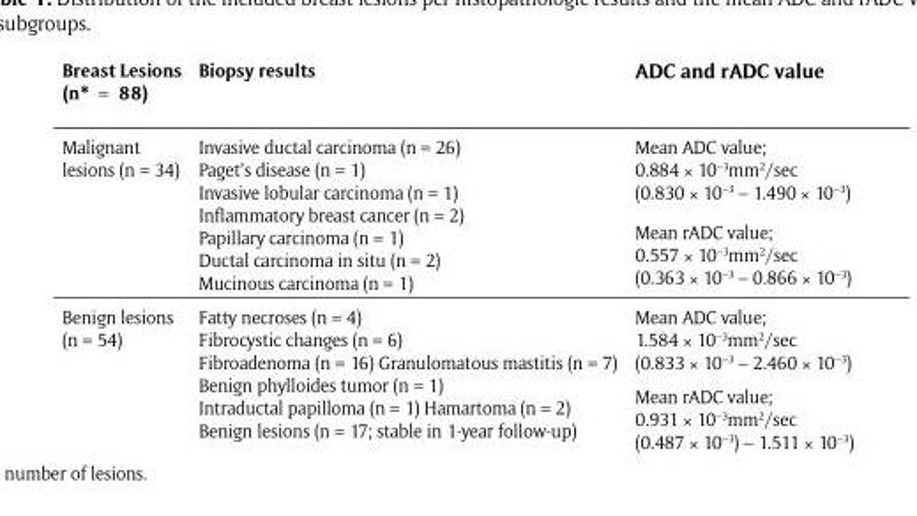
<table><thead><tr><td>Breast Lesions (n* = 88)</td><td>Biopsy results</td><td>ADC and rADC value</td></tr></thead><tbody><tr><td rowspan="2">Malignant lesions (n = 34)</td><td rowspan="2">Invasive ductal carcinoma (n = 26) Paget’s disease (n = 1) Invasive lobular carcinoma (n = 1) Inflammatory breast cancer (n = 2) Papillary carcinoma (n = 1) Ductal carcinoma in situ (n = 2) Mucinous carcinoma (n = 1)</td><td>Mean ADC value; 0.884 × 10<sup>–3</sup>mm<sup>2</sup>/sec (0.830 × 10<sup>–3</sup> – 1.490 × 10<sup>–3</sup>)</td></tr><tr><td>Mean rADC value; 0.557 × 10<sup>–3</sup>mm<sup>2</sup>/sec (0.363 × 10<sup>–3</sup> – 0.866 × 10<sup>–3</sup>)</td></tr><tr><td rowspan="2">Benign lesions (n = 54)</td><td rowspan="2">Fatty necroses (n = 4) Fibrocystic changes (n = 6) Fibroadenoma (n = 16) Granulomatous mastitis (n = 7) Benign phylloides tumor (n = 1) Intraductal papilloma (n = 1) Hamartoma (n = 2) Benign lesions (n = 17; stable in 1-year follow-up)</td><td>Mean ADC value; 1.584 × 10<sup>–3</sup>mm<sup>2</sup>/sec (0.833 × 10<sup>–3</sup> – 2.460 × 10<sup>–3</sup>)</td></tr><tr><td>Mean rADC value; 0.931 × 10<sup>–3</sup>mm<sup>2</sup>/sec (0.487 × 10<sup>–3</sup>) – 1.511 × 10<sup>–3</sup>)</td></tr></tbody></table>